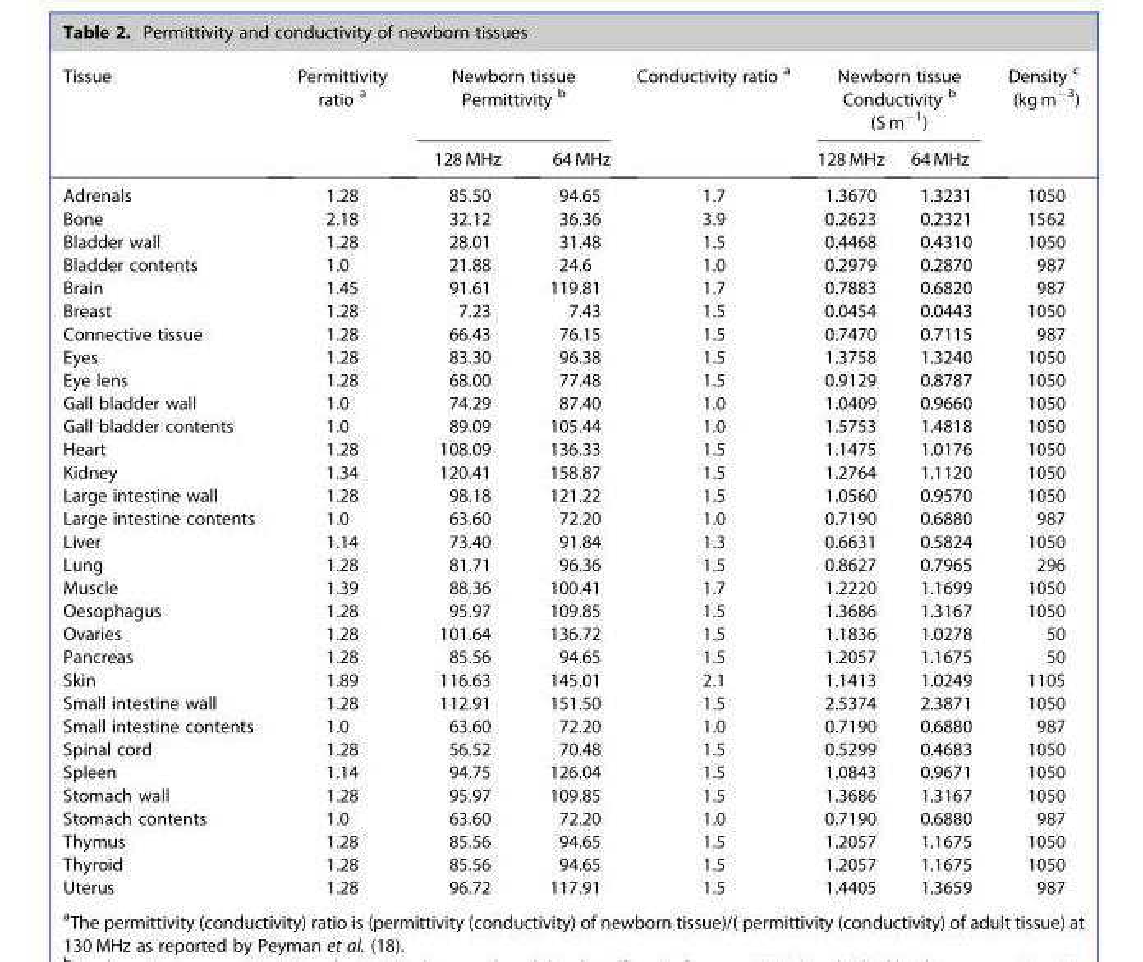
<table><thead><tr><td rowspan="2">Tissue</td><td rowspan="2">Permittivity ratio a</td><td colspan="2">Newborn tissue Permittivity b</td><td rowspan="2">Conductivity ratio a</td><td colspan="2">Newborn tissue Conductivity b (S m<sup>−1</sup>)</td><td rowspan="2">Density c (kg m<sup>−3</sup>)</td></tr><tr><td>128 MHz</td><td>64 MHz</td><td>128 MHz</td><td>64 MHz</td></tr></thead><tbody><tr><td>Adrenals</td><td>1.28</td><td>85.50</td><td>94.65</td><td>1.7</td><td>1.3670</td><td>1.3231</td><td>1050</td></tr><tr><td>Bone</td><td>2.18</td><td>32.12</td><td>36.36</td><td>3.9</td><td>0.2623</td><td>0.2321</td><td>1562</td></tr><tr><td>Bladder wall</td><td>1.28</td><td>28.01</td><td>31.48</td><td>1.5</td><td>0.4468</td><td>0.4310</td><td>1050</td></tr><tr><td>Bladder contents</td><td>1.0</td><td>21.88</td><td>24.6</td><td>1.0</td><td>0.2979</td><td>0.2870</td><td>987</td></tr><tr><td>Brain</td><td>1.45</td><td>91.61</td><td>119.81</td><td>1.7</td><td>0.7883</td><td>0.6820</td><td>987</td></tr><tr><td>Breast</td><td>1.28</td><td>7.23</td><td>7.43</td><td>1.5</td><td>0.0454</td><td>0.0443</td><td>1050</td></tr><tr><td>Connective tissue</td><td>1.28</td><td>66.43</td><td>76.15</td><td>1.5</td><td>0.7470</td><td>0.7115</td><td>987</td></tr><tr><td>Eyes</td><td>1.28</td><td>83.30</td><td>96.38</td><td>1.5</td><td>1.3758</td><td>1.3240</td><td>1050</td></tr><tr><td>Eye lens</td><td>1.28</td><td>68.00</td><td>77.48</td><td>1.5</td><td>0.9129</td><td>0.8787</td><td>1050</td></tr><tr><td>Gall bladder wall</td><td>1.0</td><td>74.29</td><td>87.40</td><td>1.0</td><td>1.0409</td><td>0.9660</td><td>1050</td></tr><tr><td>Gall bladder contents</td><td>1.0</td><td>89.09</td><td>105.44</td><td>1.0</td><td>1.5753</td><td>1.4818</td><td>1050</td></tr><tr><td>Heart</td><td>1.28</td><td>108.09</td><td>136.33</td><td>1.5</td><td>1.1475</td><td>1.0176</td><td>1050</td></tr><tr><td>Kidney</td><td>1.34</td><td>120.41</td><td>158.87</td><td>1.5</td><td>1.2764</td><td>1.1120</td><td>1050</td></tr><tr><td>Large intestine wall</td><td>1.28</td><td>98.18</td><td>121.22</td><td>1.5</td><td>1.0560</td><td>0.9570</td><td>1050</td></tr><tr><td>Large intestine contents</td><td>1.0</td><td>63.60</td><td>72.20</td><td>1.0</td><td>0.7190</td><td>0.6880</td><td>987</td></tr><tr><td>Liver</td><td>1.14</td><td>73.40</td><td>91.84</td><td>1.3</td><td>0.6631</td><td>0.5824</td><td>1050</td></tr><tr><td>Lung</td><td>1.28</td><td>81.71</td><td>96.36</td><td>1.5</td><td>0.8627</td><td>0.7965</td><td>296</td></tr><tr><td>Muscle</td><td>1.39</td><td>88.36</td><td>100.41</td><td>1.7</td><td>1.2220</td><td>1.1699</td><td>1050</td></tr><tr><td>Oesophagus</td><td>1.28</td><td>95.97</td><td>109.85</td><td>1.5</td><td>1.3686</td><td>1.3167</td><td>1050</td></tr><tr><td>Ovaries</td><td>1.28</td><td>101.64</td><td>136.72</td><td>1.5</td><td>1.1836</td><td>1.0278</td><td>50</td></tr><tr><td>Pancreas</td><td>1.28</td><td>85.56</td><td>94.65</td><td>1.5</td><td>1.2057</td><td>1.1675</td><td>50</td></tr><tr><td>Skin</td><td>1.89</td><td>116.63</td><td>145.01</td><td>2.1</td><td>1.1413</td><td>1.0249</td><td>1105</td></tr><tr><td>Small intestine wall</td><td>1.28</td><td>112.91</td><td>151.50</td><td>1.5</td><td>2.5374</td><td>2.3871</td><td>1050</td></tr><tr><td>Small intestine contents</td><td>1.0</td><td>63.60</td><td>72.20</td><td>1.0</td><td>0.7190</td><td>0.6880</td><td>987</td></tr><tr><td>Spinal cord</td><td>1.28</td><td>56.52</td><td>70.48</td><td>1.5</td><td>0.5299</td><td>0.4683</td><td>1050</td></tr><tr><td>Spleen</td><td>1.14</td><td>94.75</td><td>126.04</td><td>1.5</td><td>1.0843</td><td>0.9671</td><td>1050</td></tr><tr><td>Stomach wall</td><td>1.28</td><td>95.97</td><td>109.85</td><td>1.5</td><td>1.3686</td><td>1.3167</td><td>1050</td></tr><tr><td>Stomach contents</td><td>1.0</td><td>63.60</td><td>72.20</td><td>1.0</td><td>0.7190</td><td>0.6880</td><td>987</td></tr><tr><td>Thymus</td><td>1.28</td><td>85.56</td><td>94.65</td><td>1.5</td><td>1.2057</td><td>1.1675</td><td>1050</td></tr><tr><td>Thyroid</td><td>1.28</td><td>85.56</td><td>94.65</td><td>1.5</td><td>1.2057</td><td>1.1675</td><td>1050</td></tr><tr><td>Uterus</td><td>1.28</td><td>96.72</td><td>117.91</td><td>1.5</td><td>1.4405</td><td>1.3659</td><td>987</td></tr></tbody></table>